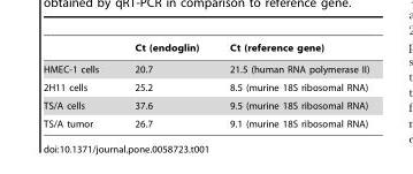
<table><thead><tr><td></td><td>Ct (endoglin)</td><td>Ct (reference gene)</td></tr></thead><tbody><tr><td>HMEC-1 cells</td><td>20.7</td><td>21.5 (human RNA polymerase II)</td></tr><tr><td>2H11 cells</td><td>25.2</td><td>8.5 (murine 18S ribosomal RNA)</td></tr><tr><td>TS/A cells</td><td>37.6</td><td>9.5 (murine 18S ribosomal RNA)</td></tr><tr><td>TS/A tumor</td><td>26.7</td><td>9.1 (murine 18S ribosomal RNA)</td></tr></tbody></table>